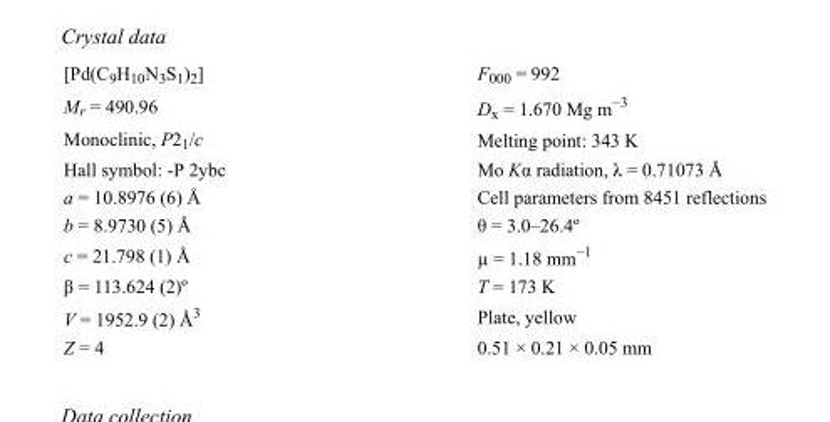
<table><tbody><tr><td>[Pd(C9H10N3S1)2]</td><td>F000 = 992</td></tr><tr><td>M<sub>r</sub> = 490.96</td><td>D<sub>x</sub> = 1.670 Mg m<sup>−3</sup></td></tr><tr><td>Monoclinic, P2<sub>1</sub>/c</td><td>Melting point: 343 K</td></tr><tr><td>Hall symbol: -P 2ybc</td><td>Mo Kα radiation, λ = 0.71073 Å</td></tr><tr><td>a = 10.8976 (6) Å</td><td>Cell parameters from 8451 reflections</td></tr><tr><td>b = 8.9730 (5) Å</td><td>θ = 3.0–26.4º</td></tr><tr><td>c = 21.798 (1) Å</td><td>µ = 1.18 mm<sup>−1</sup></td></tr><tr><td>β = 113.624 (2)º</td><td>T = 173 K</td></tr><tr><td>V = 1952.9 (2) Å<sup>3</sup></td><td>Plate, yellow</td></tr><tr><td>Z = 4</td><td>0.51 × 0.21 × 0.05 mm</td></tr></tbody></table>